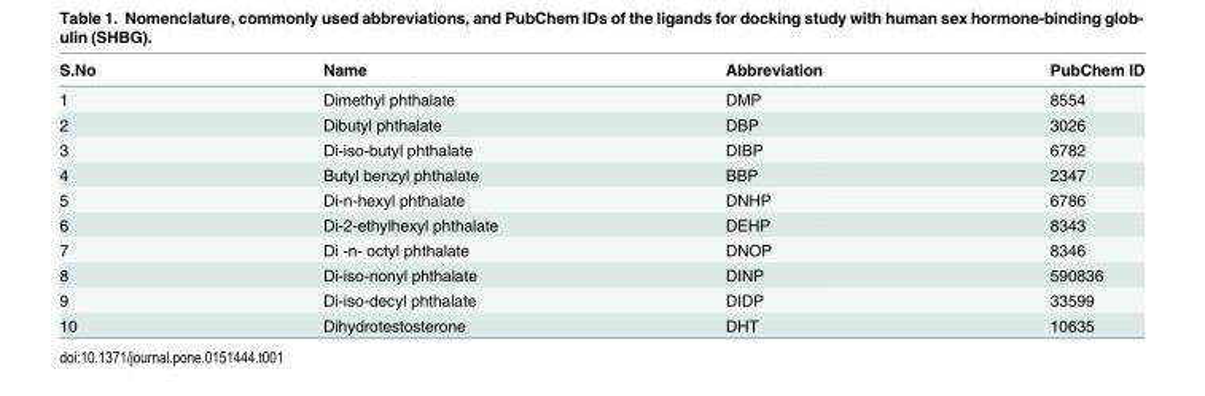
<table><thead><tr><td>S.No</td><td>Name</td><td>Abbreviation</td><td>PubChem ID</td></tr></thead><tbody><tr><td>1</td><td>Dimethyl phthalate</td><td>DMP</td><td>8554</td></tr><tr><td>2</td><td>Dibutyl phthalate</td><td>DBP</td><td>3026</td></tr><tr><td>3</td><td>Di-iso-butyl phthalate</td><td>DIBP</td><td>6782</td></tr><tr><td>4</td><td>Butyl benzyl phthalate</td><td>BBP</td><td>2347</td></tr><tr><td>5</td><td>Di-n-hexyl phthalate</td><td>DNHP</td><td>6786</td></tr><tr><td>6</td><td>Di-2-ethylhexyl phthalate</td><td>DEHP</td><td>8343</td></tr><tr><td>7</td><td>Di -n- octyl phthalate</td><td>DNOP</td><td>8346</td></tr><tr><td>8</td><td>Di-iso-nonyl phthalate</td><td>DINP</td><td>590836</td></tr><tr><td>9</td><td>Di-iso-decyl phthalate</td><td>DIDP</td><td>33599</td></tr><tr><td>10</td><td>Dihydrotestosterone</td><td>DHT</td><td>10635</td></tr></tbody></table>